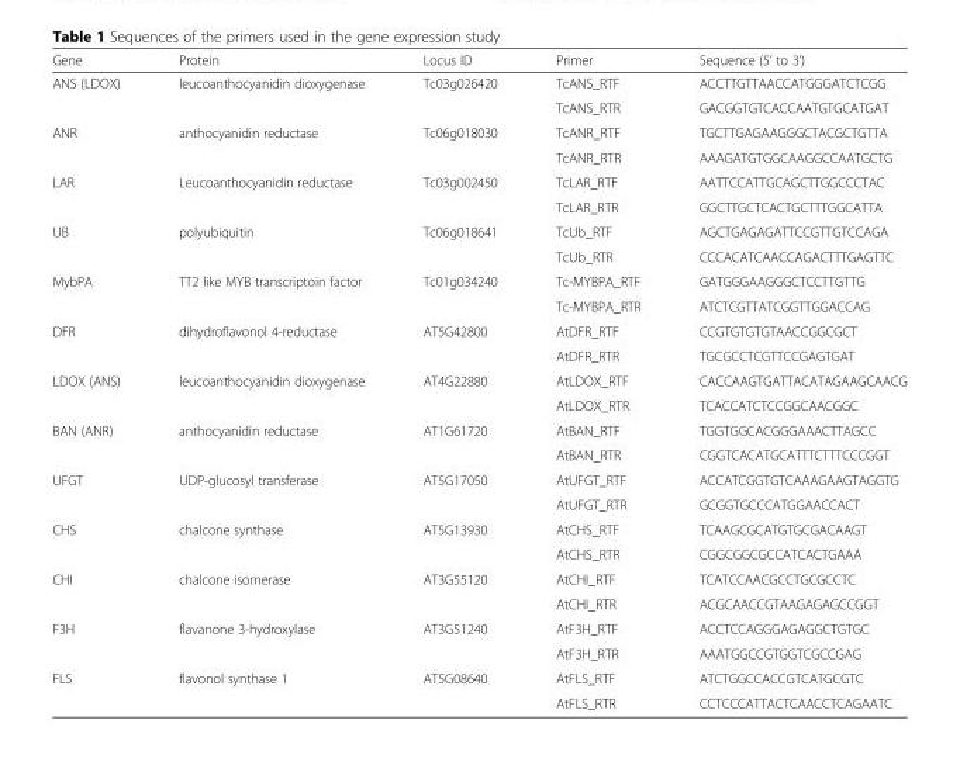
<table><thead><tr><td>Gene</td><td>Protein</td><td>Locus ID</td><td>Primer</td><td>Sequence (5’ to 3’)</td></tr></thead><tbody><tr><td rowspan="2">ANS (LDOX)</td><td rowspan="2">leucoanthocyanidin dioxygenase</td><td rowspan="2">Tc03g026420</td><td>TcANS_RTF</td><td>ACCTTGTTAACCATGGGATCTCGG</td></tr><tr><td>TcANS_RTR</td><td>GACGGTGTCACCAATGTGCATGAT</td></tr><tr><td rowspan="2">ANR</td><td rowspan="2">anthocyanidin reductase</td><td rowspan="2">Tc06g018030</td><td>TcANR_RTF</td><td>TGCTTGAGAAGGGCTACGCTGTTA</td></tr><tr><td>TcANR_RTR</td><td>AAAGATGTGGCAAGGCCAATGCTG</td></tr><tr><td rowspan="2">LAR</td><td rowspan="2">Leucoanthocyanidin reductase</td><td rowspan="2">Tc03g002450</td><td>TcLAR_RTF</td><td>AATTCCATTGCAGCTTGGCCCTAC</td></tr><tr><td>TcLAR_RTR</td><td>GGCTTGCTCACTGCTTTGGCATTA</td></tr><tr><td rowspan="2">UB</td><td rowspan="2">polyubiquitin</td><td rowspan="2">Tc06g018641</td><td>TcUb_RTF</td><td>AGCTGAGAGATTCCGTTGTCCAGA</td></tr><tr><td>TcUb_RTR</td><td>CCCACATCAACCAGACTTTGAGTTC</td></tr><tr><td rowspan="2">MybPA</td><td rowspan="2">TT2 like MYB transcriptoin factor</td><td rowspan="2">Tc01g034240</td><td>Tc-MYBPA_RTF</td><td>GATGGGAAGGGCTCCTTGTTG</td></tr><tr><td>Tc-MYBPA_RTR</td><td>ATCTCGTTATCGGTTGGACCAG</td></tr><tr><td rowspan="2">DFR</td><td rowspan="2">dihydroflavonol 4-reductase</td><td rowspan="2">AT5G42800</td><td>AtDFR_RTF</td><td>CCGTGTGTGTAACCGGCGCT</td></tr><tr><td>AtDFR_RTR</td><td>TGCGCCTCGTTCCGAGTGAT</td></tr><tr><td rowspan="2">LDOX (ANS)</td><td rowspan="2">leucoanthocyanidin dioxygenase</td><td rowspan="2">AT4G22880</td><td>AtLDOX_RTF</td><td>CACCAAGTGATTACATAGAAGCAACG</td></tr><tr><td>AtLDOX_RTR</td><td>TCACCATCTCCGGCAACGGC</td></tr><tr><td rowspan="2">BAN (ANR)</td><td rowspan="2">anthocyanidin reductase</td><td rowspan="2">AT1G61720</td><td>AtBAN_RTF</td><td>TGGTGGCACGGGAAACTTAGCC</td></tr><tr><td>AtBAN_RTR</td><td>CGGTCACATGCATTTCTTTCCCGGT</td></tr><tr><td rowspan="2">UFGT</td><td rowspan="2">UDP-glucosyl transferase</td><td rowspan="2">AT5G17050</td><td>AtUFGT_RTF</td><td>ACCATCGGTGTCAAAGAAGTAGGTG</td></tr><tr><td>AtUFGT_RTR</td><td>GCGGTGCCCATGGAACCACT</td></tr><tr><td rowspan="2">CHS</td><td rowspan="2">chalcone synthase</td><td rowspan="2">AT5G13930</td><td>AtCHS_RTF</td><td>TCAAGCGCATGTGCGACAAGT</td></tr><tr><td>AtCHS_RTR</td><td>CGGCGGCGCCATCACTGAAA</td></tr><tr><td rowspan="2">CHI</td><td rowspan="2">chalcone isomerase</td><td rowspan="2">AT3G55120</td><td>AtCHI_RTF</td><td>TCATCCAACGCCTGCGCCTC</td></tr><tr><td>AtCHI_RTR</td><td>ACGCAACCGTAAGAGAGCCGGT</td></tr><tr><td rowspan="2">F3H</td><td rowspan="2">flavanone 3-hydroxylase</td><td rowspan="2">AT3G51240</td><td>AtF3H_RTF</td><td>ACCTCCAGGGAGAGGCTGTGC</td></tr><tr><td>AtF3H_RTR</td><td>AAATGGCCGTGGTCGCCGAG</td></tr><tr><td rowspan="2">FLS</td><td rowspan="2">flavonol synthase 1</td><td rowspan="2">AT5G08640</td><td>AtFLS_RTF</td><td>ATCTGGCCACCGTCATGCGTC</td></tr><tr><td>AtFLS_RTR</td><td>CCTCCCATTACTCAACCTCAGAATC</td></tr></tbody></table>